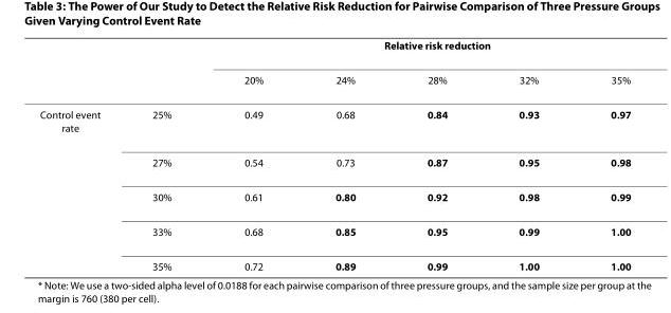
<table><thead><tr><td rowspan="2"></td><td rowspan="2"></td><td colspan="5">Relative risk reduction</td></tr><tr><td>20%</td><td>24%</td><td>28%</td><td>32%</td><td>35%</td></tr></thead><tbody><tr><td rowspan="5">Control event rate</td><td>25%</td><td>0.49</td><td>0.68</td><td>0.84</td><td>0.93</td><td>0.97</td></tr><tr><td>27%</td><td>0.54</td><td>0.73</td><td>0.87</td><td>0.95</td><td>0.98</td></tr><tr><td>30%</td><td>0.61</td><td>0.80</td><td>0.92</td><td>0.98</td><td>0.99</td></tr><tr><td>33%</td><td>0.68</td><td>0.85</td><td>0.95</td><td>0.99</td><td>1.00</td></tr><tr><td>35%</td><td>0.72</td><td>0.89</td><td>0.99</td><td>1.00</td><td>1.00</td></tr></tbody></table>